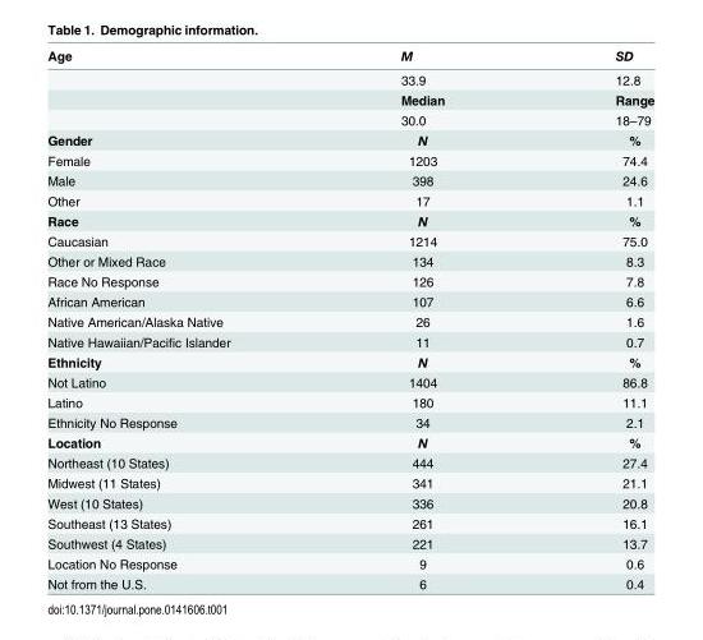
<table><thead><tr><td>Age</td><td>M</td><td>SD</td></tr></thead><tbody><tr><td></td><td>33.9</td><td>12.8</td></tr><tr><td></td><td>Median</td><td>Range</td></tr><tr><td></td><td>30.0</td><td>18–79</td></tr><tr><td>Gender</td><td>N</td><td>%</td></tr><tr><td>Female</td><td>1203</td><td>74.4</td></tr><tr><td>Male</td><td>398</td><td>24.6</td></tr><tr><td>Other</td><td>17</td><td>1.1</td></tr><tr><td>Race</td><td>N</td><td>%</td></tr><tr><td>Caucasian</td><td>1214</td><td>75.0</td></tr><tr><td>Other or Mixed Race</td><td>134</td><td>8.3</td></tr><tr><td>Race No Response</td><td>126</td><td>7.8</td></tr><tr><td>African American</td><td>107</td><td>6.6</td></tr><tr><td>Native American/Alaska Native</td><td>26</td><td>1.6</td></tr><tr><td>Native Hawaiian/Pacific Islander</td><td>11</td><td>0.7</td></tr><tr><td>Ethnicity</td><td>N</td><td>%</td></tr><tr><td>Not Latino</td><td>1404</td><td>86.8</td></tr><tr><td>Latino</td><td>180</td><td>11.1</td></tr><tr><td>Ethnicity No Response</td><td>34</td><td>2.1</td></tr><tr><td>Location</td><td>N</td><td>%</td></tr><tr><td>Northeast (10 States)</td><td>444</td><td>27.4</td></tr><tr><td>Midwest (11 States)</td><td>341</td><td>21.1</td></tr><tr><td>West (10 States)</td><td>336</td><td>20.8</td></tr><tr><td>Southeast (13 States)</td><td>261</td><td>16.1</td></tr><tr><td>Southwest (4 States)</td><td>221</td><td>13.7</td></tr><tr><td>Location No Response</td><td>9</td><td>0.6</td></tr><tr><td>Not from the U.S.</td><td>6</td><td>0.4</td></tr></tbody></table>